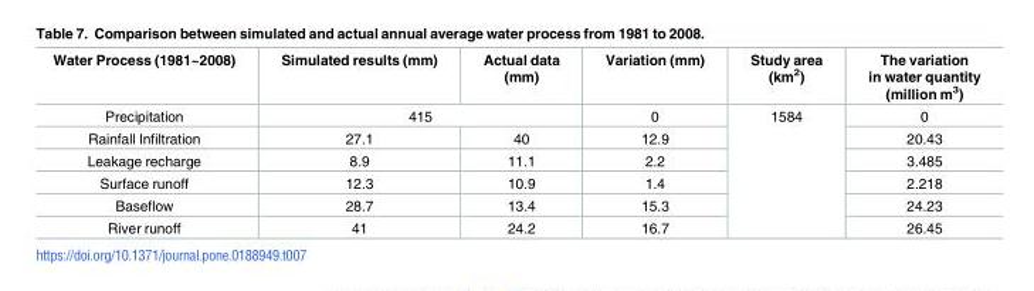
<table><thead><tr><td>Water Process (1981~2008)</td><td>Simulated results (mm)</td><td>Actual data (mm)</td><td>Variation (mm)</td><td>Study area (km<sup>2</sup>)</td><td>The variation in water quantity (million m<sup>3</sup>)</td></tr></thead><tbody><tr><td>Precipitation</td><td colspan="2">415</td><td>0</td><td rowspan="6">1584</td><td>0</td></tr><tr><td>Rainfall Infiltration</td><td>27.1</td><td>40</td><td>12.9</td><td>20.43</td></tr><tr><td>Leakage recharge</td><td>8.9</td><td>11.1</td><td>2.2</td><td>3.485</td></tr><tr><td>Surface runoff</td><td>12.3</td><td>10.9</td><td>1.4</td><td>2.218</td></tr><tr><td>Baseflow</td><td>28.7</td><td>13.4</td><td>15.3</td><td>24.23</td></tr><tr><td>River runoff</td><td>41</td><td>24.2</td><td>16.7</td><td>26.45</td></tr></tbody></table>